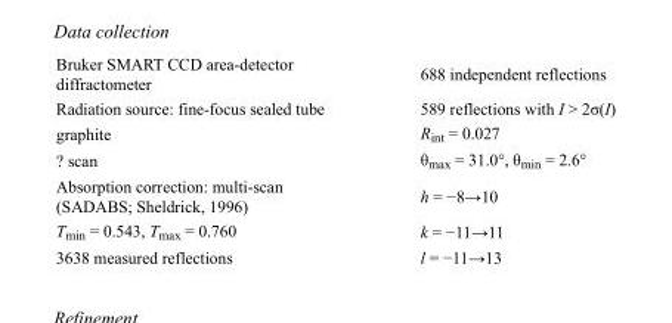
<table><tbody><tr><td>Bruker SMART CCD area-detector diffractometer</td><td>688 independent reflections</td></tr><tr><td>Radiation source: fine-focus sealed tube</td><td>589 reflections with I &gt; 2σ(I)</td></tr><tr><td>graphite</td><td>R<sub>int</sub> = 0.027</td></tr><tr><td>? scan</td><td>θ<sub>max</sub> = 31.0°, θ<sub>min</sub> = 2.6°</td></tr><tr><td>Absorption correction: multi-scan (SADABS; Sheldrick, 1996)</td><td>h = −8→10</td></tr><tr><td>T<sub>min</sub> = 0.543, T<sub>max</sub> = 0.760</td><td>k = −11→11</td></tr><tr><td>3638 measured reflections</td><td>l = −11→13</td></tr></tbody></table>